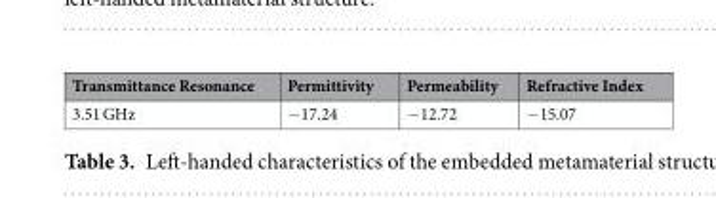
<table><thead><tr><td>Transmittance Resonance</td><td>Permittivity</td><td>Permeability</td><td>Refractive Index</td></tr></thead><tbody><tr><td>3.51 GHz</td><td>−17.24</td><td>−12.72</td><td>−15.07</td></tr></tbody></table>